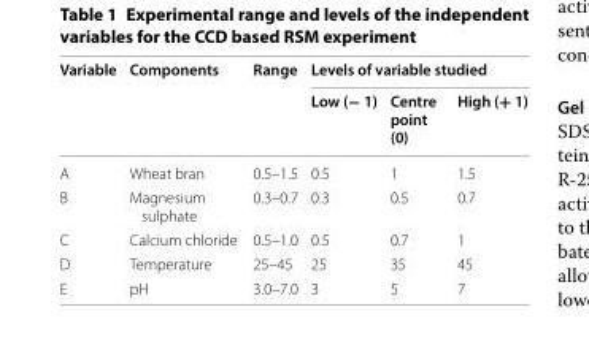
<table><thead><tr><td rowspan="2">Variable</td><td rowspan="2">Components</td><td rowspan="2">Range</td><td colspan="3">Levels of variable studied</td></tr><tr><td>Low (− 1)</td><td>Centre point (0)</td><td>High (+ 1)</td></tr></thead><tbody><tr><td>A</td><td>Wheat bran</td><td>0.5–1.5</td><td>0.5</td><td>1</td><td>1.5</td></tr><tr><td>B</td><td>Magnesium sulphate</td><td>0.3–0.7</td><td>0.3</td><td>0.5</td><td>0.7</td></tr><tr><td>C</td><td>Calcium chloride</td><td>0.5–1.0</td><td>0.5</td><td>0.7</td><td>1</td></tr><tr><td>D</td><td>Temperature</td><td>25–45</td><td>25</td><td>35</td><td>45</td></tr><tr><td>E</td><td>pH</td><td>3.0–7.0</td><td>3</td><td>5</td><td>7</td></tr></tbody></table>